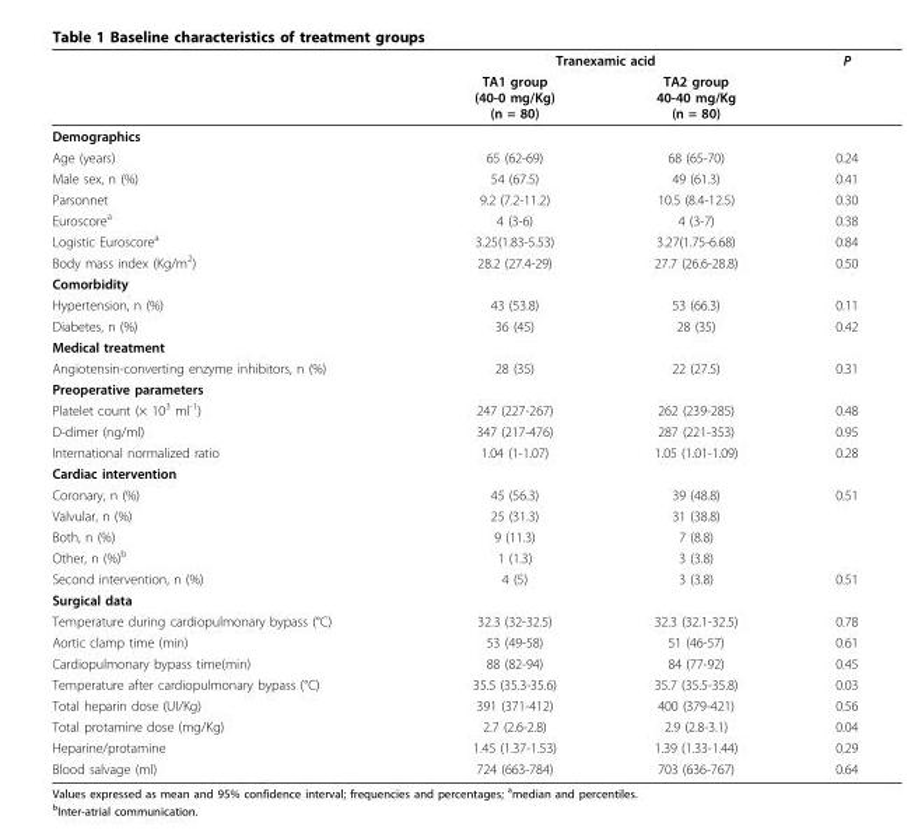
<table><thead><tr><td rowspan="2"></td><td colspan="2">Tranexamic acid</td><td rowspan="2">P</td></tr><tr><td>TA1 group (40-0 mg/Kg) (n = 80)</td><td>TA2 group 40-40 mg/Kg (n = 80)</td></tr></thead><tbody><tr><td colspan="4">Demographics</td></tr><tr><td>Age (years)</td><td>65 (62-69)</td><td>68 (65-70)</td><td>0.24</td></tr><tr><td>Male sex, n (%)</td><td>54 (67.5)</td><td>49 (61.3)</td><td>0.41</td></tr><tr><td>Parsonnet</td><td>9.2 (7.2-11.2)</td><td>10.5 (8.4-12.5)</td><td>0.30</td></tr><tr><td>Euroscore<sup>a</sup></td><td>4 (3-6)</td><td>4 (3-7)</td><td>0.38</td></tr><tr><td>Logistic Euroscore<sup>a</sup></td><td>3.25(1.83-5.53)</td><td>3.27(1.75-6.68)</td><td>0.84</td></tr><tr><td>Body mass index (Kg/m<sup>2</sup>)</td><td>28.2 (27.4-29)</td><td>27.7 (26.6-28.8)</td><td>0.50</td></tr><tr><td colspan="4">Comorbidity</td></tr><tr><td>Hypertension, n (%)</td><td>43 (53.8)</td><td>53 (66.3)</td><td>0.11</td></tr><tr><td>Diabetes, n (%)</td><td>36 (45)</td><td>28 (35)</td><td>0.42</td></tr><tr><td colspan="4">Medical treatment</td></tr><tr><td>Angiotensin-converting enzyme inhibitors, n (%)</td><td>28 (35)</td><td>22 (27.5)</td><td>0.31</td></tr><tr><td colspan="4">Preoperative parameters</td></tr><tr><td>Platelet count (× 10<sup>3</sup> ml<sup>-1</sup>)</td><td>247 (227-267)</td><td>262 (239-285)</td><td>0.48</td></tr><tr><td>D-dimer (ng/ml)</td><td>347 (217-476)</td><td>287 (221-353)</td><td>0.95</td></tr><tr><td>International normalized ratio</td><td>1.04 (1-1.07)</td><td>1.05 (1.01-1.09)</td><td>0.28</td></tr><tr><td colspan="4">Cardiac intervention</td></tr><tr><td>Coronary, n (%)</td><td>45 (56.3)</td><td>39 (48.8)</td><td>0.51</td></tr><tr><td>Valvular, n (%)</td><td>25 (31.3)</td><td>31 (38.8)</td><td></td></tr><tr><td>Both, n (%)</td><td>9 (11.3)</td><td>7 (8.8)</td><td></td></tr><tr><td>Other, n (%)<sup>b</sup></td><td>1 (1.3)</td><td>3 (3.8)</td><td></td></tr><tr><td>Second intervention, n (%)</td><td>4 (5)</td><td>3 (3.8)</td><td>0.51</td></tr><tr><td colspan="4">Surgical data</td></tr><tr><td>Temperature during cardiopulmonary bypass (°C)</td><td>32.3 (32-32.5)</td><td>32.3 (32.1-32.5)</td><td>0.78</td></tr><tr><td>Aortic clamp time (min)</td><td>53 (49-58)</td><td>51 (46-57)</td><td>0.61</td></tr><tr><td>Cardiopulmonary bypass time(min)</td><td>88 (82-94)</td><td>84 (77-92)</td><td>0.45</td></tr><tr><td>Temperature after cardiopulmonary bypass (°C)</td><td>35.5 (35.3-35.6)</td><td>35.7 (35.5-35.8)</td><td>0.03</td></tr><tr><td>Total heparin dose (UI/Kg)</td><td>391 (371-412)</td><td>400 (379-421)</td><td>0.56</td></tr><tr><td>Total protamine dose (mg/Kg)</td><td>2.7 (2.6-2.8)</td><td>2.9 (2.8-3.1)</td><td>0.04</td></tr><tr><td>Heparine/protamine</td><td>1.45 (1.37-1.53)</td><td>1.39 (1.33-1.44)</td><td>0.29</td></tr><tr><td>Blood salvage (ml)</td><td>724 (663-784)</td><td>703 (636-767)</td><td>0.64</td></tr></tbody></table>